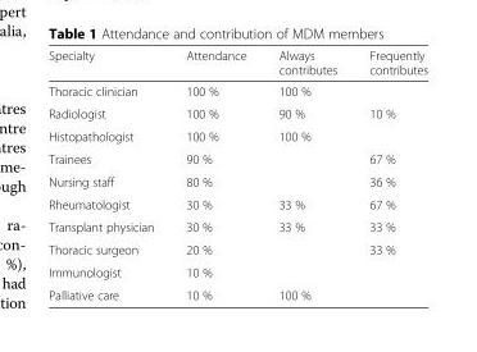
<table><thead><tr><td>Specialty</td><td>Attendance</td><td>Always contributes</td><td>Frequently contributes</td></tr></thead><tbody><tr><td>Thoracic clinician</td><td>100 %</td><td>100 %</td><td></td></tr><tr><td>Radiologist</td><td>100 %</td><td>90 %</td><td>10 %</td></tr><tr><td>Histopathologist</td><td>100 %</td><td>100 %</td><td></td></tr><tr><td>Trainees</td><td>90 %</td><td></td><td>67 %</td></tr><tr><td>Nursing staff</td><td>80 %</td><td></td><td>36 %</td></tr><tr><td>Rheumatologist</td><td>30 %</td><td>33 %</td><td>67 %</td></tr><tr><td>Transplant physician</td><td>30 %</td><td>33 %</td><td>33 %</td></tr><tr><td>Thoracic surgeon</td><td>20 %</td><td></td><td>33 %</td></tr><tr><td>Immunologist</td><td>10 %</td><td></td><td></td></tr><tr><td>Palliative care</td><td>10 %</td><td>100 %</td><td></td></tr></tbody></table>